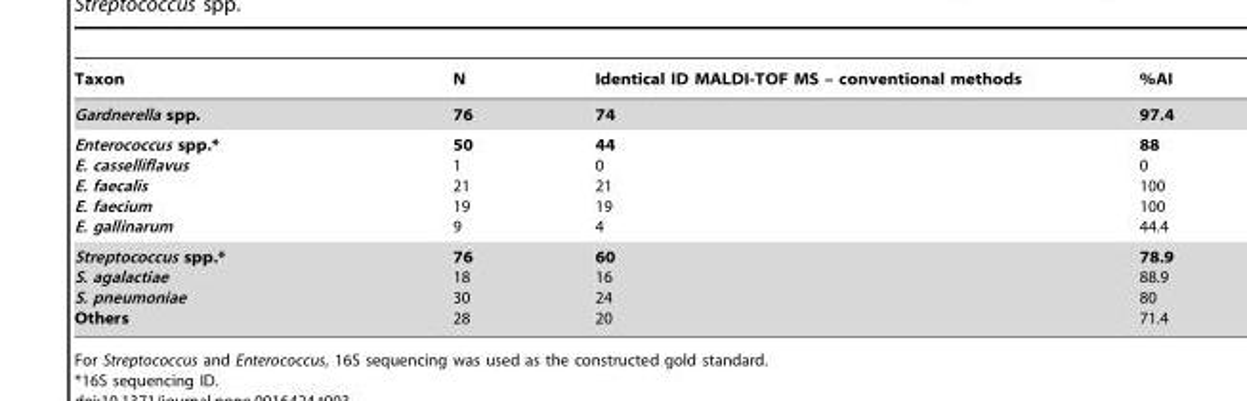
<table><thead><tr><td>Taxon</td><td>N</td><td>Identical ID MALDI-TOF MS – conventional methods</td><td>%AI</td></tr></thead><tbody><tr><td>Gardnerella spp.</td><td>76</td><td>74</td><td>97.4</td></tr><tr><td>Enterococcus spp.* E. casselliflavus E. faecalis E. faecium E. gallinarum</td><td>50 1 21 19 9</td><td>44 0 21 19 4</td><td>88 0 100 100 44.4</td></tr><tr><td>Streptococcus spp.* S. agalactiae S. pneumoniae Others</td><td>76 18 30 28</td><td>60 16 24 20</td><td>78.9 88.9 80 71.4</td></tr></tbody></table>